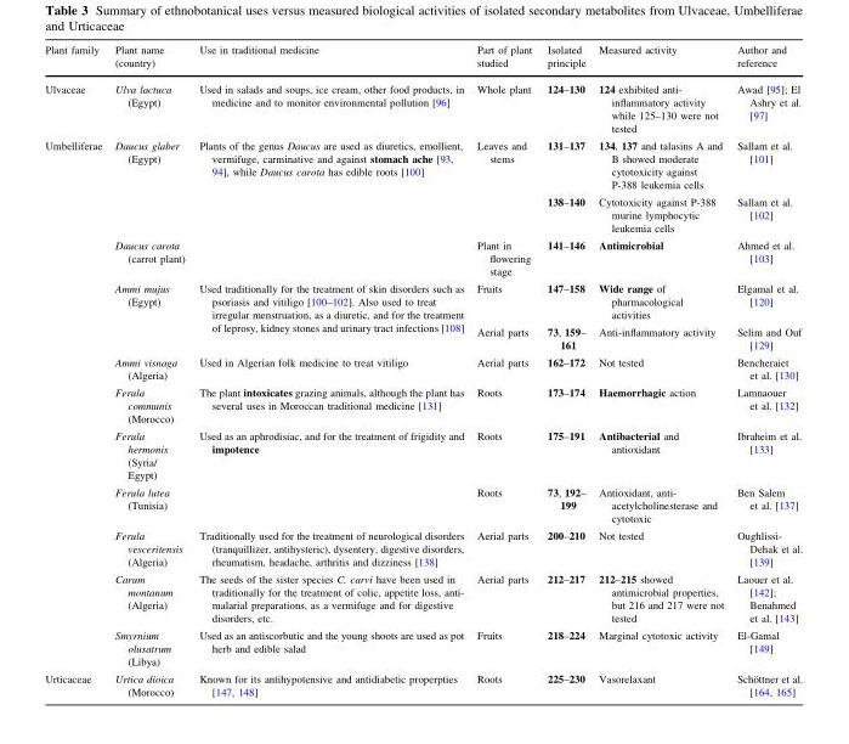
<table><thead><tr><td>Plant family</td><td>Plant name (country)</td><td>Use in traditional medicine</td><td>Part of plant studied</td><td>Isolated principle</td><td>Measured activity</td><td>Author and reference</td></tr></thead><tbody><tr><td>Ulvaceae</td><td>Ulva lactuca (Egypt)</td><td>Used in salads and soups, ice cream, other food products, in medicine and to monitor environmental pollution [96]</td><td>Whole plant</td><td>124–130</td><td>124 exhibited anti- inflammatory activity while 125–130 were not tested</td><td>Awad [95]; El Ashry et al. [97]</td></tr><tr><td rowspan="12">Umbelliferae</td><td rowspan="2">Daucus glaber (Egypt)</td><td rowspan="3">Plants of the genus Daucus are used as diuretics, emollient, vermifuge, carminative and against stomach ache [93, 94], while Daucus carota has edible roots [100]</td><td rowspan="2">Leaves and stems</td><td>131–137</td><td>134, 137 and talasins A and B showed moderate cytotoxicity against P-388 leukemia cells</td><td>Sallam et al. [101]</td></tr><tr><td>138–140</td><td>Cytotoxicity against P-388 murine lymphocytic leukemia cells</td><td>Sallam et al. [102]</td></tr><tr><td>Daucus carota (carrot plant)</td><td>Plant in flowering stage</td><td>141–146</td><td>Antimicrobial</td><td>Ahmed et al. [103]</td></tr><tr><td rowspan="2">Ammi mujus (Egypt)</td><td rowspan="2">Used traditionally for the treatment of skin disorders such as psoriasis and vitiligo [100–102]. Also used to treat irregular menstruation, as a diuretic, and for the treatment of leprosy, kidney stones and urinary tract infections [108]</td><td>Fruits</td><td>147–158</td><td>Wide range of pharmacological activities</td><td>Elgamal et al. [120]</td></tr><tr><td>Aerial parts</td><td>73, 159– 161</td><td>Anti-inflammatory activity</td><td>Selim and Ouf [129]</td></tr><tr><td>Ammi visnaga (Algeria)</td><td>Used in Algerian folk medicine to treat vitiligo</td><td>Aerial parts</td><td>162–172</td><td>Not tested</td><td>Bencheraiet et al. [130]</td></tr><tr><td>Ferula communis (Morocco)</td><td>The plant intoxicates grazing animals, although the plant has several uses in Moroccan traditional medicine [131]</td><td>Roots</td><td>173–174</td><td>Haemorrhagic action</td><td>Lamnaouer et al. [132]</td></tr><tr><td>Ferula hermonis (Syria/ Egypt)</td><td>Used as an aphrodisiac, and for the treatment of frigidity and impotence</td><td>Roots</td><td>175–191</td><td>Antibacterial and antioxidant</td><td>Ibraheim et al. [133]</td></tr><tr><td>Ferula lutea (Tunisia)</td><td></td><td>Roots</td><td>73, 192– 199</td><td>Antioxidant, anti- acetylcholinesterase and cytotoxic</td><td>Ben Salem et al. [137]</td></tr><tr><td>Ferula vesceritensis (Algeria)</td><td>Traditionally used for the treatment of neurological disorders (tranquillizer, antihysteric), dysentery, digestive disorders, rheumatism, headache, arthritis and dizziness [138]</td><td>Aerial parts</td><td>200–210</td><td>Not tested</td><td>Oughlissi- Dehak et al. [139]</td></tr><tr><td>Carum montanum (Algeria)</td><td>The seeds of the sister species C. carvi have been used in traditionally for the treatment of colic, appetite loss, anti- malarial preparations, as a vermifuge and for digestive disorders, etc.</td><td>Aerial parts</td><td>212–217</td><td>212–215 showed antimicrobial properties, but 216 and 217 were not tested</td><td>Laouer et al. [142]; Benahmed et al. [143]</td></tr><tr><td>Smyrnium olusatrum (Libya)</td><td>Used as an antiscorbutic and the young shoots are used as pot herb and edible salad</td><td>Fruits</td><td>218–224</td><td>Marginal cytotoxic activity</td><td>El-Gamal [149]</td></tr><tr><td>Urticaceae</td><td>Urtica dioica (Morocco)</td><td>Known for its antihypotensive and antidiabetic properpties [147, 148]</td><td>Roots</td><td>225–230</td><td>Vasorelaxant</td><td>Scho¨ttner et al. [164, 165]</td></tr></tbody></table>